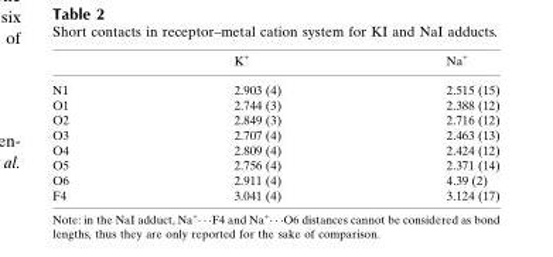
<table><thead><tr><td></td><td>K<sup>+</sup></td><td>Na<sup>+</sup></td></tr></thead><tbody><tr><td>N1</td><td>2.903 (4)</td><td>2.515 (15)</td></tr><tr><td>O1</td><td>2.744 (3)</td><td>2.388 (12)</td></tr><tr><td>O2</td><td>2.849 (3)</td><td>2.716 (12)</td></tr><tr><td>O3</td><td>2.707 (4)</td><td>2.463 (13)</td></tr><tr><td>O4</td><td>2.809 (4)</td><td>2.424 (12)</td></tr><tr><td>O5</td><td>2.756 (4)</td><td>2.371 (14)</td></tr><tr><td>O6</td><td>2.911 (4)</td><td>4.39 (2)</td></tr><tr><td>F4</td><td>3.041 (4)</td><td>3.124 (17)</td></tr></tbody></table>